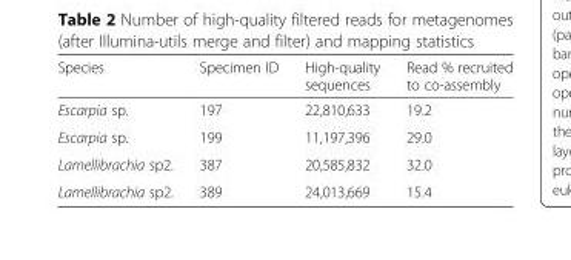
<table><thead><tr><td>Species</td><td>Specimen ID</td><td>High-quality sequences</td><td>Read % recruited to co-assembly</td></tr></thead><tbody><tr><td>Escarpia sp.</td><td>197</td><td>22,810,633</td><td>19.2</td></tr><tr><td>Escarpia sp.</td><td>199</td><td>11,197,396</td><td>29.0</td></tr><tr><td>Lamellibrachia sp2.</td><td>387</td><td>20,585,832</td><td>32.0</td></tr><tr><td>Lamellibrachia sp2.</td><td>389</td><td>24,013,669</td><td>15.4</td></tr></tbody></table>